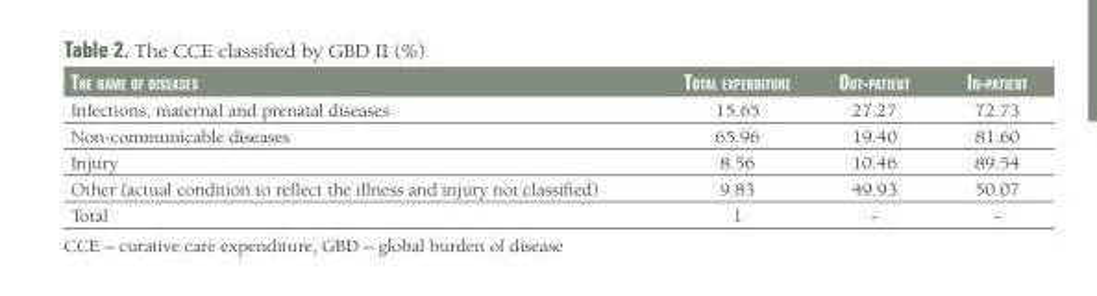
<table><thead><tr><td>The name of diseases</td><td>ToTal expendiTure</td><td>ouT-paTienT</td><td>in-paTienT</td></tr></thead><tbody><tr><td>Infections, maternal and prenatal diseases</td><td>15.65</td><td>27.27</td><td>72.73</td></tr><tr><td>Non-communicable diseases</td><td>65.96</td><td>19.40</td><td>81.60</td></tr><tr><td>Injury</td><td>8.56</td><td>10.46</td><td>89.54</td></tr><tr><td>Other (actual condition to reflect the illness and injury not classified)</td><td>9.83</td><td>49.93</td><td>50.07</td></tr><tr><td>Total</td><td>1</td><td>-</td><td>-</td></tr></tbody></table>